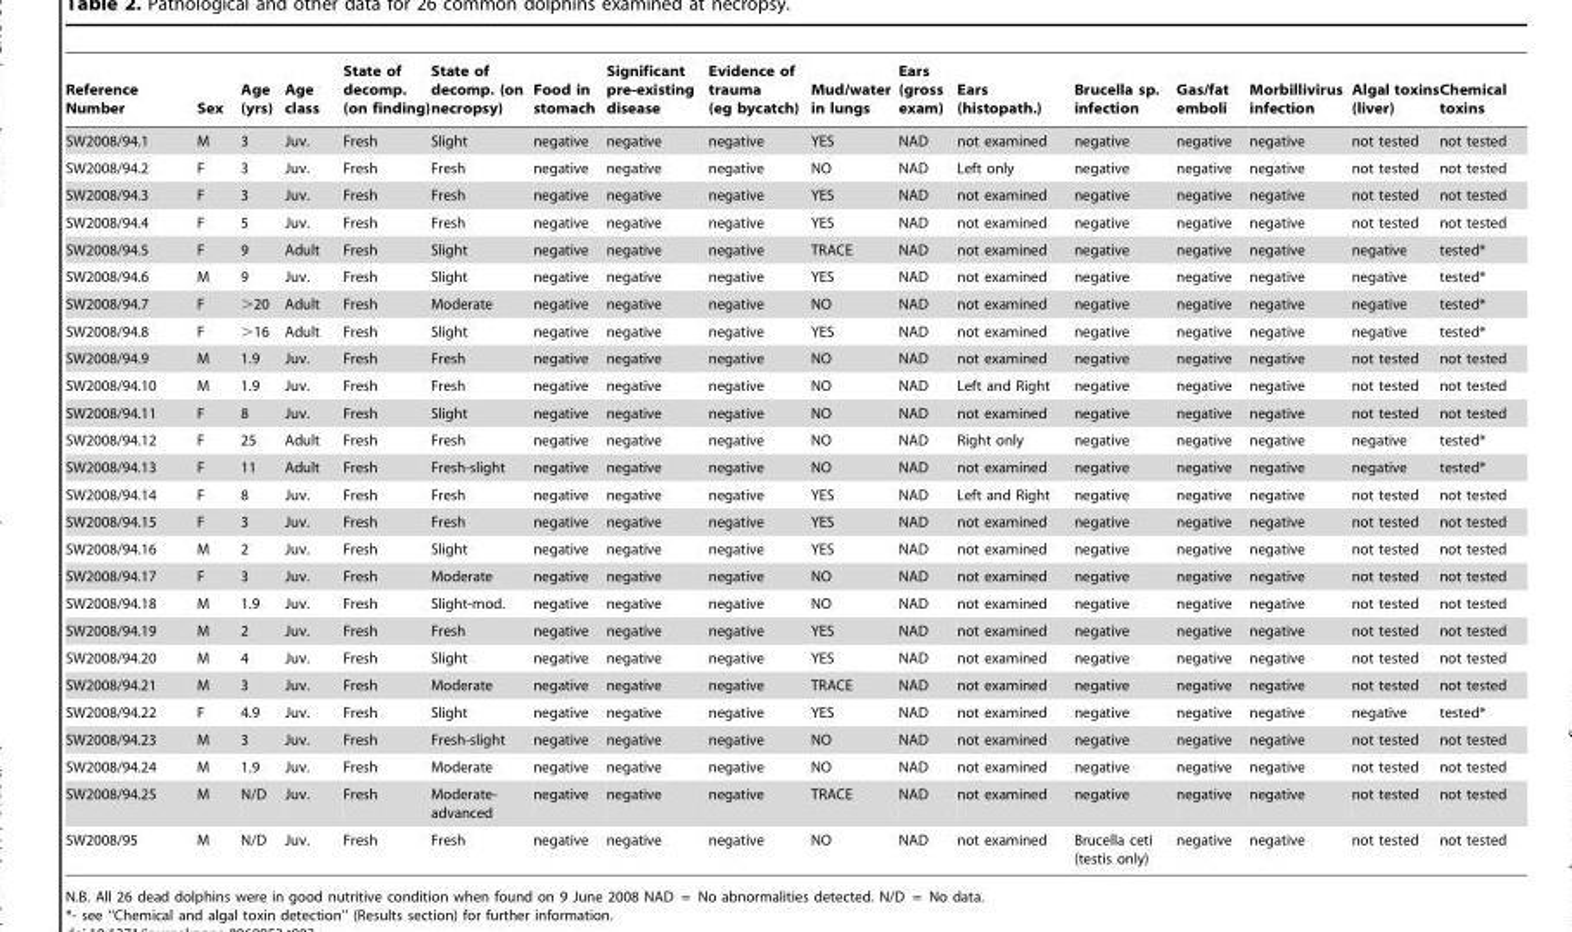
<table><thead><tr><td>Reference Number</td><td>Sex</td><td>Age (yrs)</td><td>Age class</td><td>State of decomp. (on finding)</td><td>State of decomp. (on necropsy)</td><td>Food in stomach</td><td>Significant pre-existing disease</td><td>Evidence of trauma (eg bycatch)</td><td>Mud/water in lungs</td><td>Ears (gross exam)</td><td>Ears (histopath.)</td><td>Brucella sp. infection</td><td>Gas/fat emboli</td><td>Morbillivirus infection</td><td>Algal toxins (liver)</td><td>Chemical toxins</td></tr></thead><tbody><tr><td>SW2008/94.1</td><td>M</td><td>3</td><td>Juv.</td><td>Fresh</td><td>Slight</td><td>negative</td><td>negative</td><td>negative</td><td>YES</td><td>NAD</td><td>not examined</td><td>negative</td><td>negative</td><td>negative</td><td>not tested</td><td>not tested</td></tr><tr><td>SW2008/94.2</td><td>F</td><td>3</td><td>Juv.</td><td>Fresh</td><td>Fresh</td><td>negative</td><td>negative</td><td>negative</td><td>NO</td><td>NAD</td><td>Left only</td><td>negative</td><td>negative</td><td>negative</td><td>not tested</td><td>not tested</td></tr><tr><td>SW2008/94.3</td><td>F</td><td>3</td><td>Juv.</td><td>Fresh</td><td>Fresh</td><td>negative</td><td>negative</td><td>negative</td><td>YES</td><td>NAD</td><td>not examined</td><td>negative</td><td>negative</td><td>negative</td><td>not tested</td><td>not tested</td></tr><tr><td>SW2008/94.4</td><td>F</td><td>5</td><td>Juv.</td><td>Fresh</td><td>Fresh</td><td>negative</td><td>negative</td><td>negative</td><td>YES</td><td>NAD</td><td>not examined</td><td>negative</td><td>negative</td><td>negative</td><td>not tested</td><td>not tested</td></tr><tr><td>SW2008/94.5</td><td>F</td><td>9</td><td>Adult</td><td>Fresh</td><td>Slight</td><td>negative</td><td>negative</td><td>negative</td><td>TRACE</td><td>NAD</td><td>not examined</td><td>negative</td><td>negative</td><td>negative</td><td>negative</td><td>tested*</td></tr><tr><td>SW2008/94.6</td><td>M</td><td>9</td><td>Juv.</td><td>Fresh</td><td>Slight</td><td>negative</td><td>negative</td><td>negative</td><td>YES</td><td>NAD</td><td>not examined</td><td>negative</td><td>negative</td><td>negative</td><td>negative</td><td>tested*</td></tr><tr><td>SW2008/94.7</td><td>F</td><td>&gt;20</td><td>Adult</td><td>Fresh</td><td>Moderate</td><td>negative</td><td>negative</td><td>negative</td><td>NO</td><td>NAD</td><td>not examined</td><td>negative</td><td>negative</td><td>negative</td><td>negative</td><td>tested*</td></tr><tr><td>SW2008/94.8</td><td>F</td><td>&gt;16</td><td>Adult</td><td>Fresh</td><td>Slight</td><td>negative</td><td>negative</td><td>negative</td><td>YES</td><td>NAD</td><td>not examined</td><td>negative</td><td>negative</td><td>negative</td><td>negative</td><td>tested*</td></tr><tr><td>SW2008/94.9</td><td>M</td><td>1.9</td><td>Juv.</td><td>Fresh</td><td>Fresh</td><td>negative</td><td>negative</td><td>negative</td><td>NO</td><td>NAD</td><td>not examined</td><td>negative</td><td>negative</td><td>negative</td><td>not tested</td><td>not tested</td></tr><tr><td>SW2008/94.10</td><td>M</td><td>1.9</td><td>Juv.</td><td>Fresh</td><td>Fresh</td><td>negative</td><td>negative</td><td>negative</td><td>NO</td><td>NAD</td><td>Left and Right</td><td>negative</td><td>negative</td><td>negative</td><td>not tested</td><td>not tested</td></tr><tr><td>SW2008/94.11</td><td>F</td><td>8</td><td>Juv.</td><td>Fresh</td><td>Slight</td><td>negative</td><td>negative</td><td>negative</td><td>NO</td><td>NAD</td><td>not examined</td><td>negative</td><td>negative</td><td>negative</td><td>not tested</td><td>not tested</td></tr><tr><td>SW2008/94.12</td><td>F</td><td>25</td><td>Adult</td><td>Fresh</td><td>Fresh</td><td>negative</td><td>negative</td><td>negative</td><td>NO</td><td>NAD</td><td>Right only</td><td>negative</td><td>negative</td><td>negative</td><td>negative</td><td>tested*</td></tr><tr><td>SW2008/94.13</td><td>F</td><td>11</td><td>Adult</td><td>Fresh</td><td>Fresh-slight</td><td>negative</td><td>negative</td><td>negative</td><td>NO</td><td>NAD</td><td>not examined</td><td>negative</td><td>negative</td><td>negative</td><td>negative</td><td>tested*</td></tr><tr><td>SW2008/94.14</td><td>F</td><td>8</td><td>Juv.</td><td>Fresh</td><td>Fresh</td><td>negative</td><td>negative</td><td>negative</td><td>YES</td><td>NAD</td><td>Left and Right</td><td>negative</td><td>negative</td><td>negative</td><td>not tested</td><td>not tested</td></tr><tr><td>SW2008/94.15</td><td>F</td><td>3</td><td>Juv.</td><td>Fresh</td><td>Fresh</td><td>negative</td><td>negative</td><td>negative</td><td>YES</td><td>NAD</td><td>not examined</td><td>negative</td><td>negative</td><td>negative</td><td>not tested</td><td>not tested</td></tr><tr><td>SW2008/94.16</td><td>M</td><td>2</td><td>Juv.</td><td>Fresh</td><td>Slight</td><td>negative</td><td>negative</td><td>negative</td><td>YES</td><td>NAD</td><td>not examined</td><td>negative</td><td>negative</td><td>negative</td><td>not tested</td><td>not tested</td></tr><tr><td>SW2008/94.17</td><td>F</td><td>3</td><td>Juv.</td><td>Fresh</td><td>Moderate</td><td>negative</td><td>negative</td><td>negative</td><td>NO</td><td>NAD</td><td>not examined</td><td>negative</td><td>negative</td><td>negative</td><td>not tested</td><td>not tested</td></tr><tr><td>SW2008/94.18</td><td>M</td><td>1.9</td><td>Juv.</td><td>Fresh</td><td>Slight-mod.</td><td>negative</td><td>negative</td><td>negative</td><td>NO</td><td>NAD</td><td>not examined</td><td>negative</td><td>negative</td><td>negative</td><td>not tested</td><td>not tested</td></tr><tr><td>SW2008/94.19</td><td>M</td><td>2</td><td>Juv.</td><td>Fresh</td><td>Fresh</td><td>negative</td><td>negative</td><td>negative</td><td>YES</td><td>NAD</td><td>not examined</td><td>negative</td><td>negative</td><td>negative</td><td>not tested</td><td>not tested</td></tr><tr><td>SW2008/94.20</td><td>M</td><td>4</td><td>Juv.</td><td>Fresh</td><td>Slight</td><td>negative</td><td>negative</td><td>negative</td><td>YES</td><td>NAD</td><td>not examined</td><td>negative</td><td>negative</td><td>negative</td><td>not tested</td><td>not tested</td></tr><tr><td>SW2008/94.21</td><td>M</td><td>3</td><td>Juv.</td><td>Fresh</td><td>Moderate</td><td>negative</td><td>negative</td><td>negative</td><td>TRACE</td><td>NAD</td><td>not examined</td><td>negative</td><td>negative</td><td>negative</td><td>not tested</td><td>not tested</td></tr><tr><td>SW2008/94.22</td><td>F</td><td>4.9</td><td>Juv.</td><td>Fresh</td><td>Slight</td><td>negative</td><td>negative</td><td>negative</td><td>YES</td><td>NAD</td><td>not examined</td><td>negative</td><td>negative</td><td>negative</td><td>negative</td><td>tested*</td></tr><tr><td>SW2008/94.23</td><td>M</td><td>3</td><td>Juv.</td><td>Fresh</td><td>Fresh-slight</td><td>negative</td><td>negative</td><td>negative</td><td>NO</td><td>NAD</td><td>not examined</td><td>negative</td><td>negative</td><td>negative</td><td>not tested</td><td>not tested</td></tr><tr><td>SW2008/94.24</td><td>M</td><td>1.9</td><td>Juv.</td><td>Fresh</td><td>Moderate</td><td>negative</td><td>negative</td><td>negative</td><td>NO</td><td>NAD</td><td>not examined</td><td>negative</td><td>negative</td><td>negative</td><td>not tested</td><td>not tested</td></tr><tr><td>SW2008/94.25</td><td>M</td><td>N/D</td><td>Juv.</td><td>Fresh</td><td>Moderate- advanced</td><td>negative</td><td>negative</td><td>negative</td><td>TRACE</td><td>NAD</td><td>not examined</td><td>negative</td><td>negative</td><td>negative</td><td>not tested</td><td>not tested</td></tr><tr><td>SW2008/95</td><td>M</td><td>N/D</td><td>Juv.</td><td>Fresh</td><td>Fresh</td><td>negative</td><td>negative</td><td>negative</td><td>NO</td><td>NAD</td><td>not examined</td><td>Brucella ceti (testis only)</td><td>negative</td><td>negative</td><td>not tested</td><td>not tested</td></tr></tbody></table>